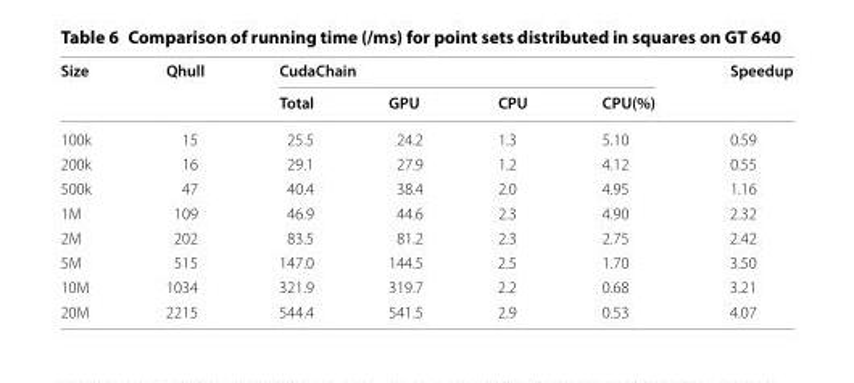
<table><thead><tr><td rowspan="2">Size</td><td rowspan="2">Qhull</td><td colspan="4">CudaChain</td><td rowspan="2">Speedup</td></tr><tr><td>Total</td><td>GPU</td><td>CPU</td><td>CPU(%)</td></tr></thead><tbody><tr><td>100k</td><td>15</td><td>25.5</td><td>24.2</td><td>1.3</td><td>5.10</td><td>0.59</td></tr><tr><td>200k</td><td>16</td><td>29.1</td><td>27.9</td><td>1.2</td><td>4.12</td><td>0.55</td></tr><tr><td>500k</td><td>47</td><td>40.4</td><td>38.4</td><td>2.0</td><td>4.95</td><td>1.16</td></tr><tr><td>1M</td><td>109</td><td>46.9</td><td>44.6</td><td>2.3</td><td>4.90</td><td>2.32</td></tr><tr><td>2M</td><td>202</td><td>83.5</td><td>81.2</td><td>2.3</td><td>2.75</td><td>2.42</td></tr><tr><td>5M</td><td>515</td><td>147.0</td><td>144.5</td><td>2.5</td><td>1.70</td><td>3.50</td></tr><tr><td>10M</td><td>1034</td><td>321.9</td><td>319.7</td><td>2.2</td><td>0.68</td><td>3.21</td></tr><tr><td>20M</td><td>2215</td><td>544.4</td><td>541.5</td><td>2.9</td><td>0.53</td><td>4.07</td></tr></tbody></table>